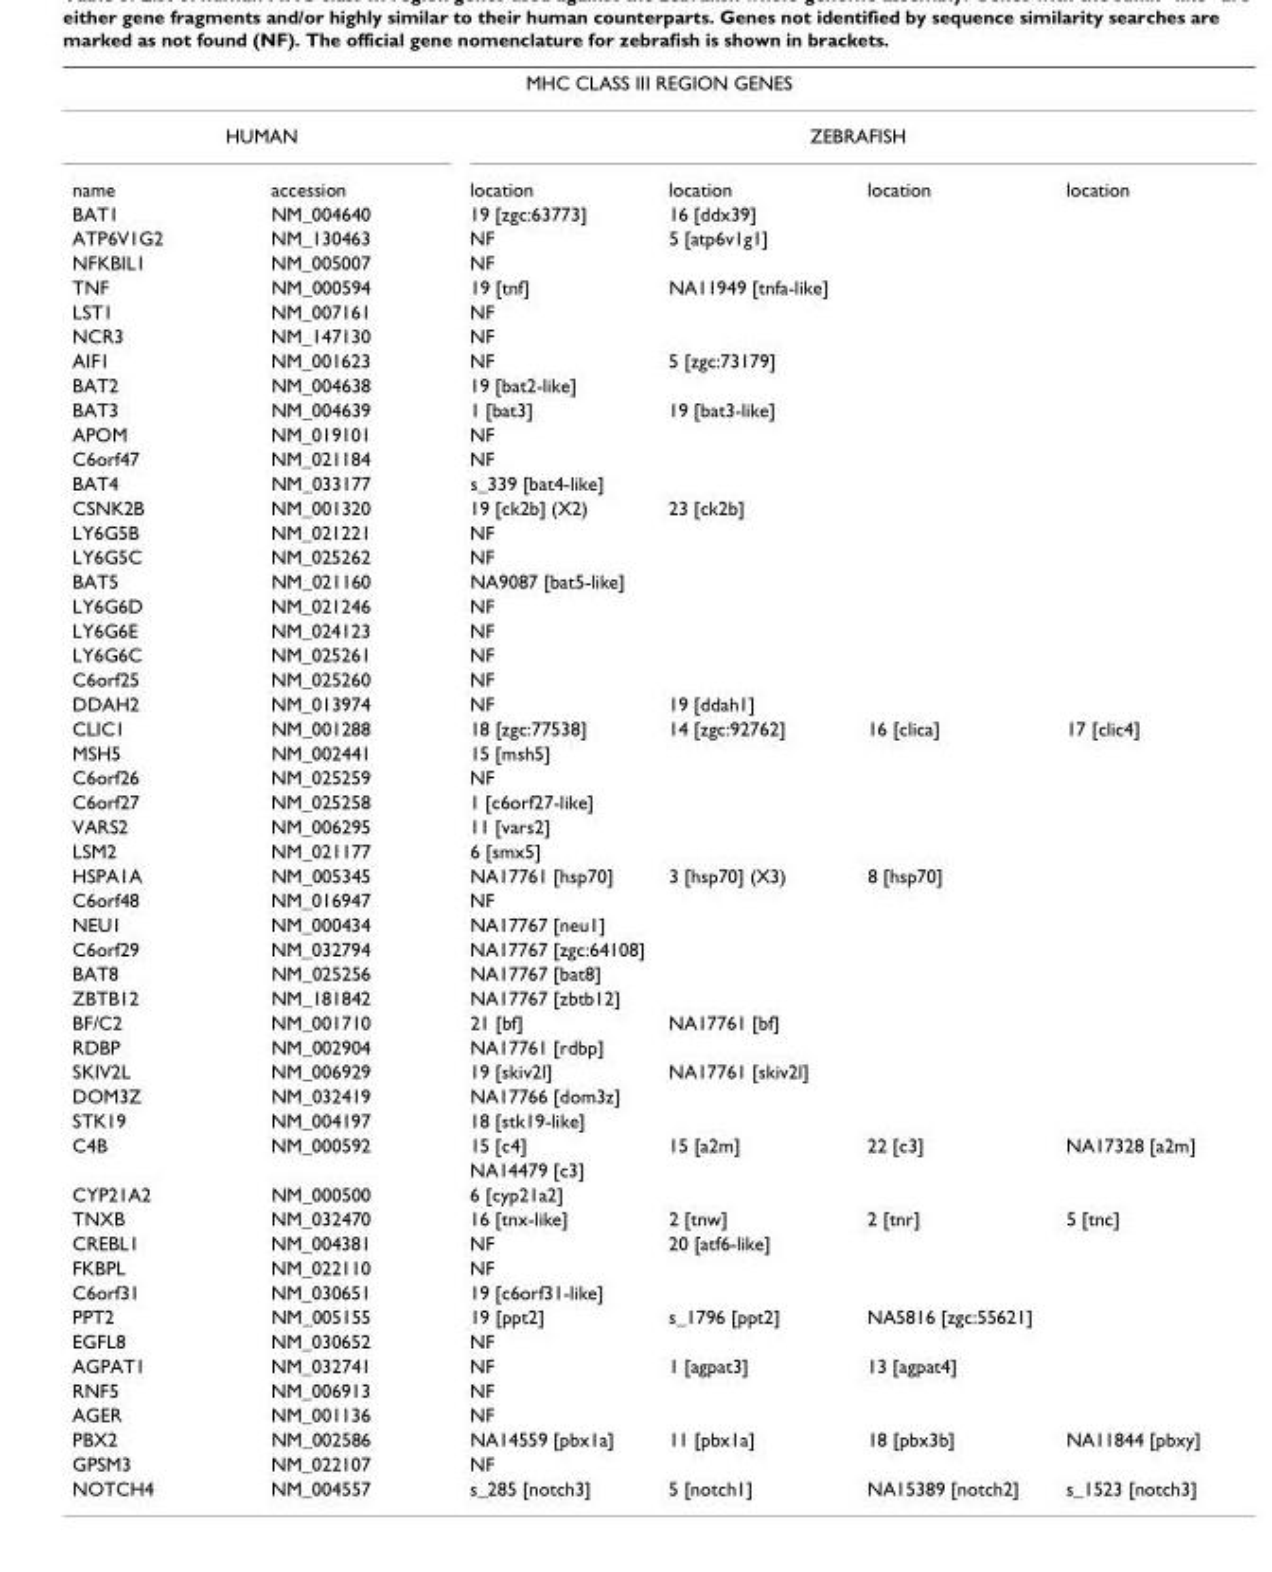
<table><thead><tr><td colspan="6">MHC CLASS III REGION GENES</td></tr><tr><td colspan="2">HUMAN</td><td colspan="4">ZEBRAFISH</td></tr><tr><td>name</td><td>accession</td><td>location</td><td>location</td><td>location</td><td>location</td></tr></thead><tbody><tr><td>BAT1</td><td>NM_004640</td><td>19 [zgc:63773]</td><td>16 [ddx39]</td><td></td><td></td></tr><tr><td>ATP6V1G2</td><td>NM_130463</td><td>NF</td><td>5 [atp6v1g1]</td><td></td><td></td></tr><tr><td>NFKBIL1</td><td>NM_005007</td><td>NF</td><td></td><td></td><td></td></tr><tr><td>TNF</td><td>NM_000594</td><td>19 [tnf]</td><td>NA11949 [tnfa-like]</td><td></td><td></td></tr><tr><td>LST1</td><td>NM_007161</td><td>NF</td><td></td><td></td><td></td></tr><tr><td>NCR3</td><td>NM_147130</td><td>NF</td><td></td><td></td><td></td></tr><tr><td>AIF1</td><td>NM_001623</td><td>NF</td><td>5 [zgc:73179]</td><td></td><td></td></tr><tr><td>BAT2</td><td>NM_004638</td><td>19 [bat2-like]</td><td></td><td></td><td></td></tr><tr><td>BAT3</td><td>NM_004639</td><td>1 [bat3]</td><td>19 [bat3-like]</td><td></td><td></td></tr><tr><td>APOM</td><td>NM_019101</td><td>NF</td><td></td><td></td><td></td></tr><tr><td>C6orf47</td><td>NM_021184</td><td>NF</td><td></td><td></td><td></td></tr><tr><td>BAT4</td><td>NM_033177</td><td>s_339 [bat4-like]</td><td></td><td></td><td></td></tr><tr><td>CSNK2B</td><td>NM_001320</td><td>19 [ck2b] (X2)</td><td>23 [ck2b]</td><td></td><td></td></tr><tr><td>LY6G5B</td><td>NM_021221</td><td>NF</td><td></td><td></td><td></td></tr><tr><td>LY6G5C</td><td>NM_025262</td><td>NF</td><td></td><td></td><td></td></tr><tr><td>BAT5</td><td>NM_021160</td><td>NA9087 [bat5-like]</td><td></td><td></td><td></td></tr><tr><td>LY6G6D</td><td>NM_021246</td><td>NF</td><td></td><td></td><td></td></tr><tr><td>LY6G6E</td><td>NM_024123</td><td>NF</td><td></td><td></td><td></td></tr><tr><td>LY6G6C</td><td>NM_025261</td><td>NF</td><td></td><td></td><td></td></tr><tr><td>C6orf25</td><td>NM_025260</td><td>NF</td><td></td><td></td><td></td></tr><tr><td>DDAH2</td><td>NM_013974</td><td>NF</td><td>19 [ddah1]</td><td></td><td></td></tr><tr><td>CLIC1</td><td>NM_001288</td><td>18 [zgc:77538]</td><td>14 [zgc:92762]</td><td>16 [clica]</td><td>17 [clic4]</td></tr><tr><td>MSH5</td><td>NM_002441</td><td>15 [msh5]</td><td></td><td></td><td></td></tr><tr><td>C6orf26</td><td>NM_025259</td><td>NF</td><td></td><td></td><td></td></tr><tr><td>C6orf27</td><td>NM_025258</td><td>1 [c6orf27-like]</td><td></td><td></td><td></td></tr><tr><td>VARS2</td><td>NM_006295</td><td>11 [vars2]</td><td></td><td></td><td></td></tr><tr><td>LSM2</td><td>NM_021177</td><td>6 [smx5]</td><td></td><td></td><td></td></tr><tr><td>HSPA1A</td><td>NM_005345</td><td>NA17761 [hsp70]</td><td>3 [hsp70] (X3)</td><td>8 [hsp70]</td><td></td></tr><tr><td>C6orf48</td><td>NM_016947</td><td>NF</td><td></td><td></td><td></td></tr><tr><td>NEU1</td><td>NM_000434</td><td>NA17767 [neu1]</td><td></td><td></td><td></td></tr><tr><td>C6orf29</td><td>NM_032794</td><td>NA17767 [zgc:64108]</td><td></td><td></td><td></td></tr><tr><td>BAT8</td><td>NM_025256</td><td>NA17767 [bat8]</td><td></td><td></td><td></td></tr><tr><td>ZBTB12</td><td>NM_181842</td><td>NA17767 [zbtb12]</td><td></td><td></td><td></td></tr><tr><td>BF/C2</td><td>NM_001710</td><td>21 [bf]</td><td>NA17761 [bf]</td><td></td><td></td></tr><tr><td>RDBP</td><td>NM_002904</td><td>NA17761 [rdbp]</td><td></td><td></td><td></td></tr><tr><td>SKIV2L</td><td>NM_006929</td><td>19 [skiv2l]</td><td>NA17761 [skiv2l]</td><td></td><td></td></tr><tr><td>DOM3Z</td><td>NM_032419</td><td>NA17766 [dom3z]</td><td></td><td></td><td></td></tr><tr><td>STK19</td><td>NM_004197</td><td>18 [stk19-like]</td><td></td><td></td><td></td></tr><tr><td rowspan="2">C4B</td><td>NM_000592</td><td>15 [c4]</td><td>15 [a2m]</td><td>22 [c3]</td><td>NA17328 [a2m]</td></tr><tr><td></td><td>NA14479 [c3]</td><td></td><td></td><td></td></tr><tr><td>CYP21A2</td><td>NM_000500</td><td>6 [cyp21a2]</td><td></td><td></td><td></td></tr><tr><td>TNXB</td><td>NM_032470</td><td>16 [tnx-like]</td><td>2 [tnw]</td><td>2 [tnr]</td><td>5 [tnc]</td></tr><tr><td>CREBL1</td><td>NM_004381</td><td>NF</td><td>20 [atf6-like]</td><td></td><td></td></tr><tr><td>FKBPL</td><td>NM_022110</td><td>NF</td><td></td><td></td><td></td></tr><tr><td>C6orf31</td><td>NM_030651</td><td>19 [c6orf31-like]</td><td></td><td></td><td></td></tr><tr><td>PPT2</td><td>NM_005155</td><td>19 [ppt2]</td><td>s_1796 [ppt2]</td><td>NA5816 [zgc:55621]</td><td></td></tr><tr><td>EGFL8</td><td>NM_030652</td><td>NF</td><td></td><td></td><td></td></tr><tr><td>AGPAT1</td><td>NM_032741</td><td>NF</td><td>1 [agpat3]</td><td>13 [agpat4]</td><td></td></tr><tr><td>RNF5</td><td>NM_006913</td><td>NF</td><td></td><td></td><td></td></tr><tr><td>AGER</td><td>NM_001136</td><td>NF</td><td></td><td></td><td></td></tr><tr><td>PBX2</td><td>NM_002586</td><td>NA14559 [pbx1a]</td><td>11 [pbx1a]</td><td>18 [pbx3b]</td><td>NA11844 [pbxy]</td></tr><tr><td>GPSM3</td><td>NM_022107</td><td>NF</td><td></td><td></td><td></td></tr><tr><td>NOTCH4</td><td>NM_004557</td><td>s_285 [notch3]</td><td>5 [notch1]</td><td>NA15389 [notch2]</td><td>s_1523 [notch3]</td></tr></tbody></table>